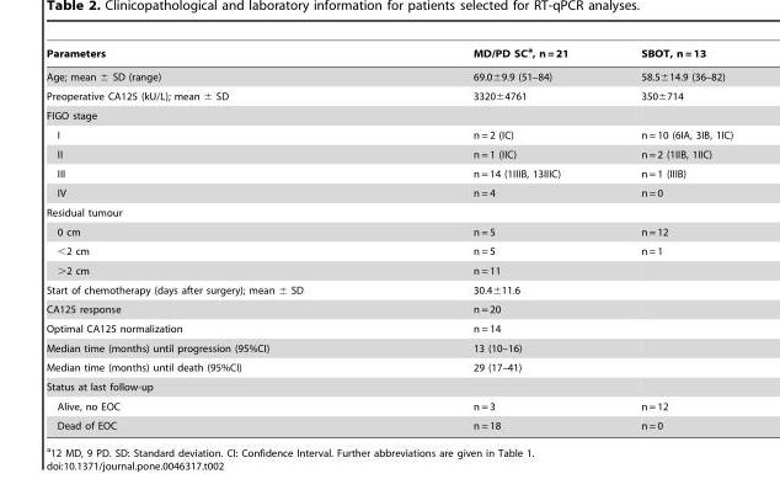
<table><thead><tr><td>Parameters</td><td>MD/PD SC<sup>a</sup>, n = 21</td><td>SBOT, n = 13</td></tr></thead><tbody><tr><td>Age; mean ± SD (range)</td><td>69.0±9.9 (51–84)</td><td>58.5±14.9 (36–82)</td></tr><tr><td>Preoperative CA125 (kU/L); mean ± SD</td><td>3320±4761</td><td>350±714</td></tr><tr><td colspan="3">FIGO stage</td></tr><tr><td>I</td><td>n = 2 (IC)</td><td>n = 10 (6IA, 3IB, 1IC)</td></tr><tr><td>II</td><td>n = 1 (IIC)</td><td>n = 2 (1IIB, 1IIC)</td></tr><tr><td>III</td><td>n = 14 (1IIIB, 13IIIC)</td><td>n = 1 (IIIB)</td></tr><tr><td>IV</td><td>n = 4</td><td>n = 0</td></tr><tr><td colspan="3">Residual tumour</td></tr><tr><td>0 cm</td><td>n = 5</td><td>n = 12</td></tr><tr><td>&lt;2 cm</td><td>n = 5</td><td>n = 1</td></tr><tr><td>&gt;2 cm</td><td>n = 11</td><td></td></tr><tr><td>Start of chemotherapy (days after surgery); mean ± SD</td><td>30.4±11.6</td><td></td></tr><tr><td>CA125 response</td><td>n = 20</td><td></td></tr><tr><td>Optimal CA125 normalization</td><td>n = 14</td><td></td></tr><tr><td>Median time (months) until progression (95%CI)</td><td>13 (10–16)</td><td></td></tr><tr><td>Median time (months) until death (95%CI)</td><td>29 (17–41)</td><td></td></tr><tr><td colspan="3">Status at last follow-up</td></tr><tr><td>Alive, no EOC</td><td>n = 3</td><td>n = 12</td></tr><tr><td>Dead of EOC</td><td>n = 18</td><td>n = 0</td></tr></tbody></table>